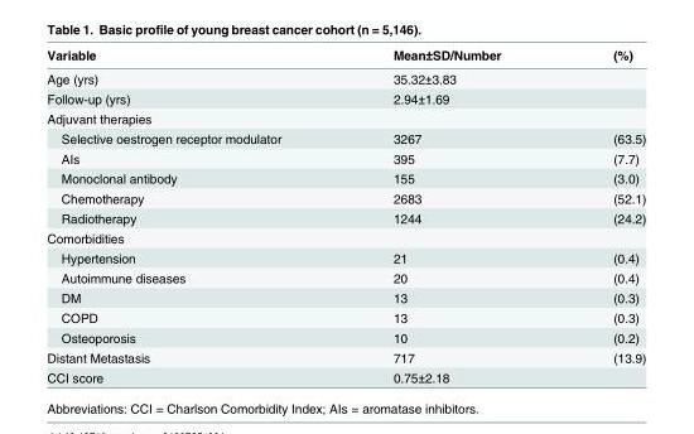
<table><thead><tr><td>Variable</td><td>Mean±SD/Number</td><td>(%)</td></tr></thead><tbody><tr><td>Age (yrs)</td><td>35.32±3.83</td><td></td></tr><tr><td>Follow-up (yrs)</td><td>2.94±1.69</td><td></td></tr><tr><td colspan="3">Adjuvant therapies</td></tr><tr><td>Selective oestrogen receptor modulator</td><td>3267</td><td>(63.5)</td></tr><tr><td>AIs</td><td>395</td><td>(7.7)</td></tr><tr><td>Monoclonal antibody</td><td>155</td><td>(3.0)</td></tr><tr><td>Chemotherapy</td><td>2683</td><td>(52.1)</td></tr><tr><td>Radiotherapy</td><td>1244</td><td>(24.2)</td></tr><tr><td colspan="3">Comorbidities</td></tr><tr><td>Hypertension</td><td>21</td><td>(0.4)</td></tr><tr><td>Autoimmune diseases</td><td>20</td><td>(0.4)</td></tr><tr><td>DM</td><td>13</td><td>(0.3)</td></tr><tr><td>COPD</td><td>13</td><td>(0.3)</td></tr><tr><td>Osteoporosis</td><td>10</td><td>(0.2)</td></tr><tr><td>Distant Metastasis</td><td>717</td><td>(13.9)</td></tr><tr><td>CCI score</td><td>0.75±2.18</td><td></td></tr></tbody></table>